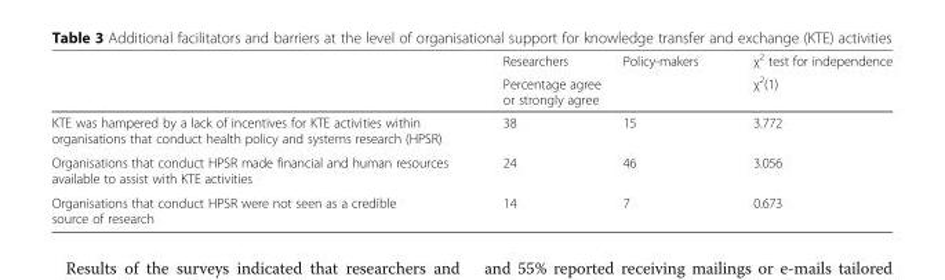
<table><thead><tr><td rowspan="2"></td><td>Researchers</td><td>Policy-makers</td><td rowspan="2">χ<sup>2</sup> test for independence χ<sup>2</sup>(1)</td></tr><tr><td colspan="2">Percentage agree or strongly agree</td></tr></thead><tbody><tr><td>KTE was hampered by a lack of incentives for KTE activities within organisations that conduct health policy and systems research (HPSR)</td><td>38</td><td>15</td><td>3.772</td></tr><tr><td>Organisations that conduct HPSR made financial and human resources available to assist with KTE activities</td><td>24</td><td>46</td><td>3.056</td></tr><tr><td>Organisations that conduct HPSR were not seen as a credible source of research</td><td>14</td><td>7</td><td>0.673</td></tr></tbody></table>